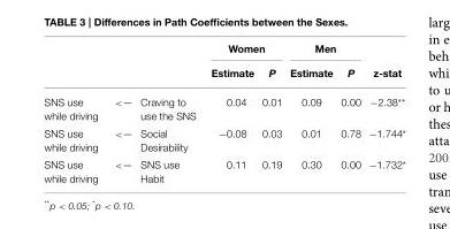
<table><thead><tr><td rowspan="2"></td><td rowspan="2"></td><td rowspan="2"></td><td colspan="2">Women</td><td colspan="2">Men</td><td rowspan="2">z-stat</td></tr><tr><td>Estimate</td><td>P</td><td>Estimate</td><td>P</td></tr></thead><tbody><tr><td>SNS use while driving</td><td>&lt;—</td><td>Craving to use the SNS</td><td>0.04</td><td>0.01</td><td>0.09</td><td>0.00</td><td>−2.38**</td></tr><tr><td>SNS use while driving</td><td>&lt;—</td><td>Social Desirability</td><td>−0.08</td><td>0.03</td><td>0.01</td><td>0.78</td><td>−1.744*</td></tr><tr><td>SNS use while driving</td><td>&lt;—</td><td>SNS use Habit</td><td>0.11</td><td>0.19</td><td>0.30</td><td>0.00</td><td>−1.732*</td></tr></tbody></table>